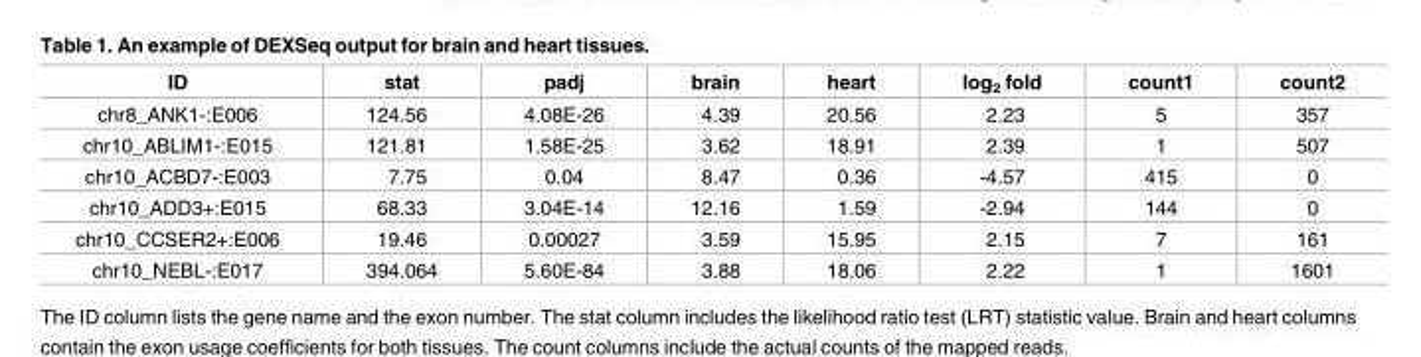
<table><thead><tr><td>ID</td><td>stat</td><td>padj</td><td>brain</td><td>heart</td><td>log<sub>2</sub> fold</td><td>count1</td><td>count2</td></tr></thead><tbody><tr><td>chr8_ANK1-:E006</td><td>124.56</td><td>4.08E-26</td><td>4.39</td><td>20.56</td><td>2.23</td><td>5</td><td>357</td></tr><tr><td>chr10_ABLIM1-:E015</td><td>121.81</td><td>1.58E-25</td><td>3.62</td><td>18.91</td><td>2.39</td><td>1</td><td>507</td></tr><tr><td>chr10_ACBD7-:E003</td><td>7.75</td><td>0.04</td><td>8.47</td><td>0.36</td><td>-4.57</td><td>415</td><td>0</td></tr><tr><td>chr10_ADD3+:E015</td><td>68.33</td><td>3.04E-14</td><td>12.16</td><td>1.59</td><td>-2.94</td><td>144</td><td>0</td></tr><tr><td>chr10_CCSER2+:E006</td><td>19.46</td><td>0.00027</td><td>3.59</td><td>15.95</td><td>2.15</td><td>7</td><td>161</td></tr><tr><td>chr10_NEBL-:E017</td><td>394.064</td><td>5.60E-84</td><td>3.88</td><td>18.06</td><td>2.22</td><td>1</td><td>1601</td></tr></tbody></table>